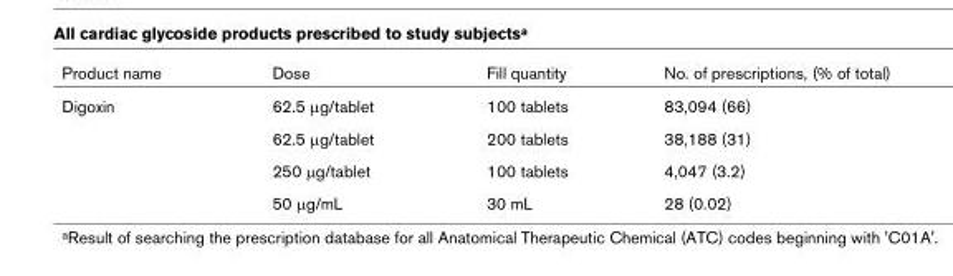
<table><thead><tr><td>Product name</td><td>Dose</td><td>Fill quantity</td><td>No. of prescriptions, (% of total)</td></tr></thead><tbody><tr><td rowspan="4">Digoxin</td><td>62.5 μg/tablet</td><td>100 tablets</td><td>83,094 (66)</td></tr><tr><td>62.5 μg/tablet</td><td>200 tablets</td><td>38,188 (31)</td></tr><tr><td>250 μg/tablet</td><td>100 tablets</td><td>4,047 (3.2)</td></tr><tr><td>50 μg/mL</td><td>30 mL</td><td>28 (0.02)</td></tr></tbody></table>